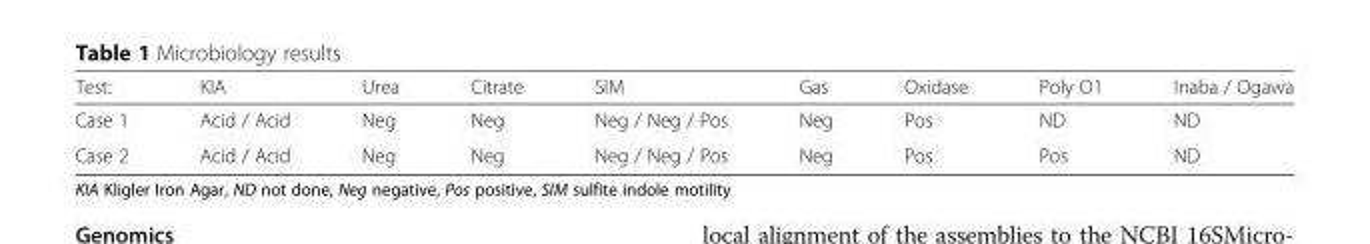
<table><thead><tr><td>Test:</td><td>KIA</td><td>Urea</td><td>Citrate</td><td>SIM</td><td>Gas</td><td>Oxidase</td><td>Poly O1</td><td>Inaba / Ogawa</td></tr></thead><tbody><tr><td>Case 1</td><td>Acid / Acid</td><td>Neg</td><td>Neg</td><td>Neg / Neg / Pos</td><td>Neg</td><td>Pos</td><td>ND</td><td>ND</td></tr><tr><td>Case 2</td><td>Acid / Acid</td><td>Neg</td><td>Neg</td><td>Neg / Neg / Pos</td><td>Neg</td><td>Pos</td><td>Pos</td><td>ND</td></tr></tbody></table>